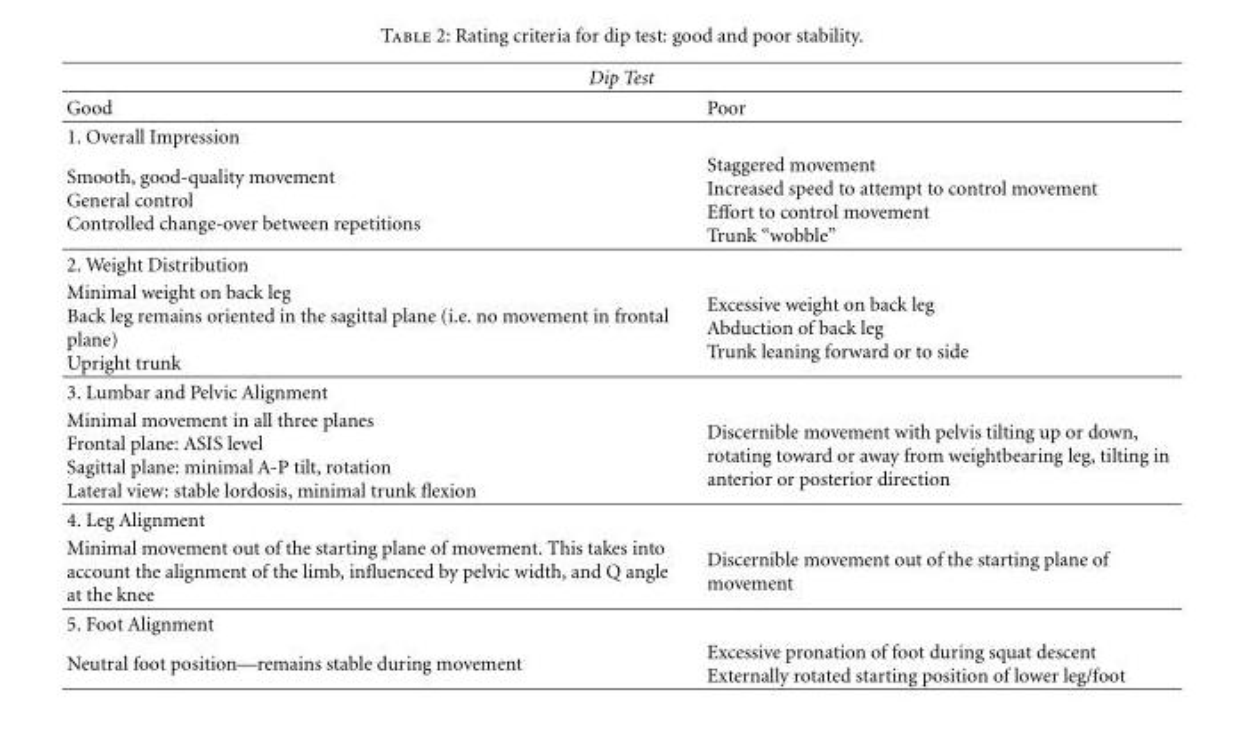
<table><thead><tr><td colspan="2">Dip Test</td></tr><tr><td>Good</td><td>Poor</td></tr></thead><tbody><tr><td colspan="2">1. Overall Impression</td></tr><tr><td>Smooth, good-quality movement General control Controlled change-over between repetitions</td><td>Staggered movement Increased speed to attempt to control movement Effort to control movement Trunk “wobble”</td></tr><tr><td colspan="2">2. Weight Distribution</td></tr><tr><td>Minimal weight on back leg Back leg remains oriented in the sagittal plane (i.e. no movement in frontal plane) Upright trunk</td><td>Excessive weight on back leg Abduction of back leg Trunk leaning forward or to side</td></tr><tr><td colspan="2">3. Lumbar and Pelvic Alignment</td></tr><tr><td>Minimal movement in all three planes Frontal plane: ASIS level Sagittal plane: minimal A-P tilt, rotation Lateral view: stable lordosis, minimal trunk flexion</td><td>Discernible movement with pelvis tilting up or down, rotating toward or away from weightbearing leg, tilting in anterior or posterior direction</td></tr><tr><td colspan="2">4. Leg Alignment</td></tr><tr><td>Minimal movement out of the starting plane of movement. This takes into account the alignment of the limb, influenced by pelvic width, and Q angle at the knee</td><td>Discernible movement out of the starting plane of movement</td></tr><tr><td colspan="2">5. Foot Alignment</td></tr><tr><td>Neutral foot position—remains stable during movement</td><td>Excessive pronation of foot during squat descent Externally rotated starting position of lower leg/foot</td></tr></tbody></table>